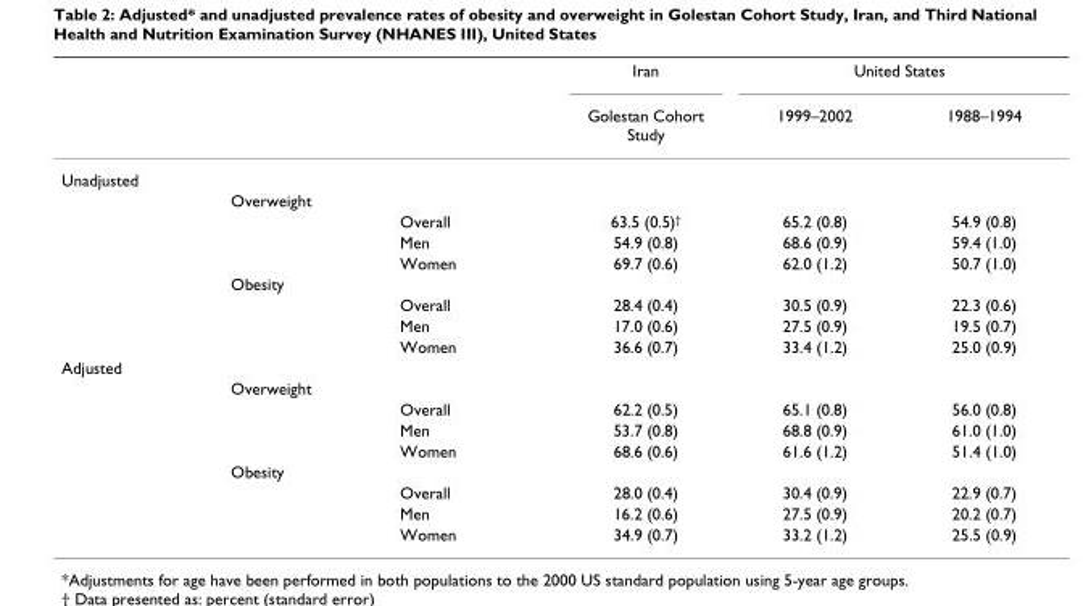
<table><thead><tr><td rowspan="2"></td><td rowspan="2"></td><td rowspan="2"></td><td rowspan="2">Iran Golestan Cohort Study</td><td colspan="2">United States</td></tr><tr><td>1999–2002</td><td>1988–1994</td></tr></thead><tbody><tr><td colspan="6">Unadjusted</td></tr><tr><td></td><td>Overweight</td><td></td><td></td><td></td><td></td></tr><tr><td></td><td></td><td>Overall</td><td>63.5 (0.5)†</td><td>65.2 (0.8)</td><td>54.9 (0.8)</td></tr><tr><td></td><td></td><td>Men</td><td>54.9 (0.8)</td><td>68.6 (0.9)</td><td>59.4 (1.0)</td></tr><tr><td></td><td></td><td>Women</td><td>69.7 (0.6)</td><td>62.0 (1.2)</td><td>50.7 (1.0)</td></tr><tr><td></td><td>Obesity</td><td></td><td></td><td></td><td></td></tr><tr><td></td><td></td><td>Overall</td><td>28.4 (0.4)</td><td>30.5 (0.9)</td><td>22.3 (0.6)</td></tr><tr><td></td><td></td><td>Men</td><td>17.0 (0.6)</td><td>27.5 (0.9)</td><td>19.5 (0.7)</td></tr><tr><td></td><td></td><td>Women</td><td>36.6 (0.7)</td><td>33.4 (1.2)</td><td>25.0 (0.9)</td></tr><tr><td colspan="6">Adjusted</td></tr><tr><td></td><td>Overweight</td><td></td><td></td><td></td><td></td></tr><tr><td></td><td></td><td>Overall</td><td>62.2 (0.5)</td><td>65.1 (0.8)</td><td>56.0 (0.8)</td></tr><tr><td></td><td></td><td>Men</td><td>53.7 (0.8)</td><td>68.8 (0.9)</td><td>61.0 (1.0)</td></tr><tr><td></td><td></td><td>Women</td><td>68.6 (0.6)</td><td>61.6 (1.2)</td><td>51.4 (1.0)</td></tr><tr><td></td><td>Obesity</td><td></td><td></td><td></td><td></td></tr><tr><td></td><td></td><td>Overall</td><td>28.0 (0.4)</td><td>30.4 (0.9)</td><td>22.9 (0.7)</td></tr><tr><td></td><td></td><td>Men</td><td>16.2 (0.6)</td><td>27.5 (0.9)</td><td>20.2 (0.7)</td></tr><tr><td></td><td></td><td>Women</td><td>34.9 (0.7)</td><td>33.2 (1.2)</td><td>25.5 (0.9)</td></tr></tbody></table>